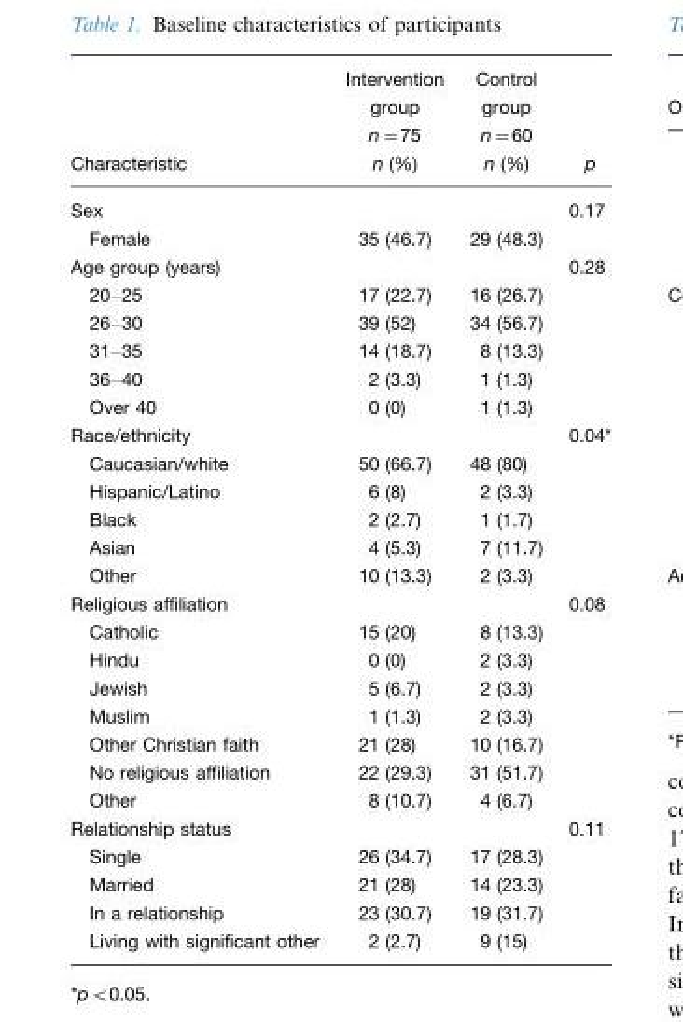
<table><thead><tr><td>Characteristic</td><td>Intervention group n=75 n (%)</td><td>Control group n=60 n (%)</td><td>p</td></tr></thead><tbody><tr><td>Sex</td><td></td><td></td><td>0.17</td></tr><tr><td>Female</td><td>35 (46.7)</td><td>29 (48.3)</td><td></td></tr><tr><td>Age group (years)</td><td></td><td></td><td>0.28</td></tr><tr><td>20–25</td><td>17 (22.7)</td><td>16 (26.7)</td><td></td></tr><tr><td>26–30</td><td>39 (52)</td><td>34 (56.7)</td><td></td></tr><tr><td>31–35</td><td>14 (18.7)</td><td>8 (13.3)</td><td></td></tr><tr><td>36–40</td><td>2 (3.3)</td><td>1 (1.3)</td><td></td></tr><tr><td>Over 40</td><td>0 (0)</td><td>1 (1.3)</td><td></td></tr><tr><td>Race/ethnicity</td><td></td><td></td><td>0.04*</td></tr><tr><td>Caucasian/white</td><td>50 (66.7)</td><td>48 (80)</td><td></td></tr><tr><td>Hispanic/Latino</td><td>6 (8)</td><td>2 (3.3)</td><td></td></tr><tr><td>Black</td><td>2 (2.7)</td><td>1 (1.7)</td><td></td></tr><tr><td>Asian</td><td>4 (5.3)</td><td>7 (11.7)</td><td></td></tr><tr><td>Other</td><td>10 (13.3)</td><td>2 (3.3)</td><td></td></tr><tr><td>Religious affiliation</td><td></td><td></td><td>0.08</td></tr><tr><td>Catholic</td><td>15 (20)</td><td>8 (13.3)</td><td></td></tr><tr><td>Hindu</td><td>0 (0)</td><td>2 (3.3)</td><td></td></tr><tr><td>Jewish</td><td>5 (6.7)</td><td>2 (3.3)</td><td></td></tr><tr><td>Muslim</td><td>1 (1.3)</td><td>2 (3.3)</td><td></td></tr><tr><td>Other Christian faith</td><td>21 (28)</td><td>10 (16.7)</td><td></td></tr><tr><td>No religious affiliation</td><td>22 (29.3)</td><td>31 (51.7)</td><td></td></tr><tr><td>Other</td><td>8 (10.7)</td><td>4 (6.7)</td><td></td></tr><tr><td>Relationship status</td><td></td><td></td><td>0.11</td></tr><tr><td>Single</td><td>26 (34.7)</td><td>17 (28.3)</td><td></td></tr><tr><td>Married</td><td>21 (28)</td><td>14 (23.3)</td><td></td></tr><tr><td>In a relationship</td><td>23 (30.7)</td><td>19 (31.7)</td><td></td></tr><tr><td>Living with significant other</td><td>2 (2.7)</td><td>9 (15)</td><td></td></tr></tbody></table>